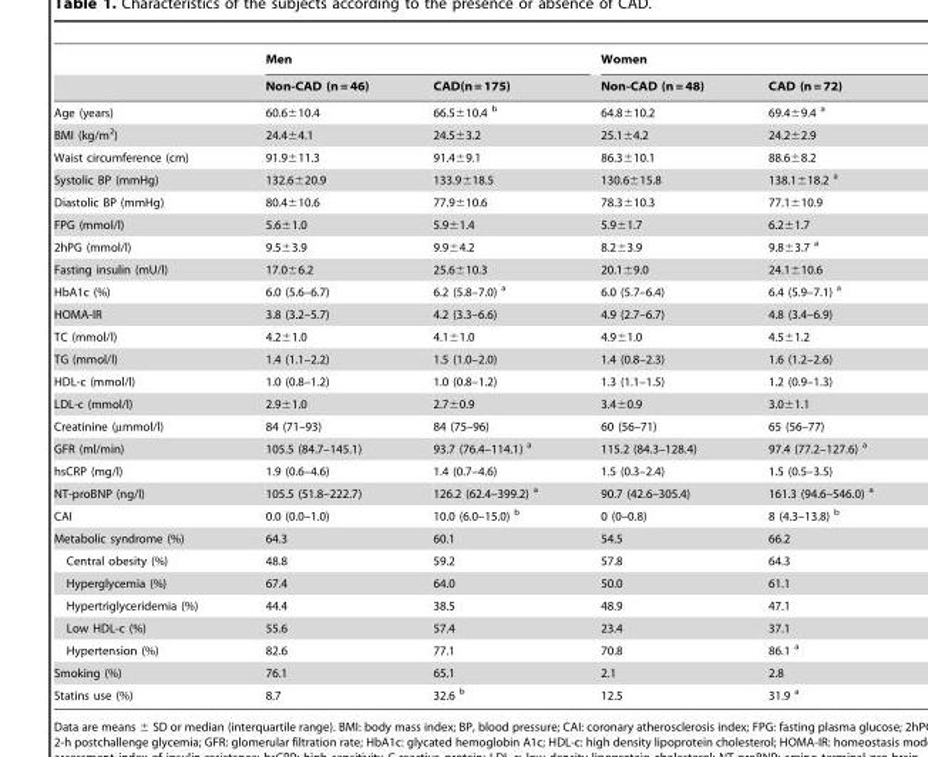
<table><thead><tr><td rowspan="2"></td><td colspan="2">Men</td><td colspan="2">Women</td></tr><tr><td>Non-CAD (n = 46)</td><td>CAD(n = 175)</td><td>Non-CAD (n = 48)</td><td>CAD (n = 72)</td></tr></thead><tbody><tr><td>Age (years)</td><td>60.6±10.4</td><td>66.5±10.4 b</td><td>64.8±10.2</td><td>69.4±9.4 a</td></tr><tr><td>BMI (kg/m<sup>2</sup>)</td><td>24.4±4.1</td><td>24.5±3.2</td><td>25.1±4.2</td><td>24.2±2.9</td></tr><tr><td>Waist circumference (cm)</td><td>91.9±11.3</td><td>91.4±9.1</td><td>86.3±10.1</td><td>88.6±8.2</td></tr><tr><td>Systolic BP (mmHg)</td><td>132.6±20.9</td><td>133.9±18.5</td><td>130.6±15.8</td><td>138.1±18.2 a</td></tr><tr><td>Diastolic BP (mmHg)</td><td>80.4±10.6</td><td>77.9±10.6</td><td>78.3±10.3</td><td>77.1±10.9</td></tr><tr><td>FPG (mmol/l)</td><td>5.6±1.0</td><td>5.9±1.4</td><td>5.9±1.7</td><td>6.2±1.7</td></tr><tr><td>2hPG (mmol/l)</td><td>9.5±3.9</td><td>9.9±4.2</td><td>8.2±3.9</td><td>9.8±3.7 a</td></tr><tr><td>Fasting insulin (mU/l)</td><td>17.0±6.2</td><td>25.6±10.3</td><td>20.1±9.0</td><td>24.1±10.6</td></tr><tr><td>HbA1c (%)</td><td>6.0 (5.6–6.7)</td><td>6.2 (5.8–7.0) a</td><td>6.0 (5.7–6.4)</td><td>6.4 (5.9–7.1) a</td></tr><tr><td>HOMA-IR</td><td>3.8 (3.2–5.7)</td><td>4.2 (3.3–6.6)</td><td>4.9 (2.7–6.7)</td><td>4.8 (3.4–6.9)</td></tr><tr><td>TC (mmol/l)</td><td>4.2±1.0</td><td>4.1±1.0</td><td>4.9±1.0</td><td>4.5±1.2</td></tr><tr><td>TG (mmol/l)</td><td>1.4 (1.1–2.2)</td><td>1.5 (1.0–2.0)</td><td>1.4 (0.8–2.3)</td><td>1.6 (1.2–2.6)</td></tr><tr><td>HDL-c (mmol/l)</td><td>1.0 (0.8–1.2)</td><td>1.0 (0.8–1.2)</td><td>1.3 (1.1–1.5)</td><td>1.2 (0.9–1.3)</td></tr><tr><td>LDL-c (mmol/l)</td><td>2.9±1.0</td><td>2.7±0.9</td><td>3.4±0.9</td><td>3.0±1.1</td></tr><tr><td>Creatinine (µmmol/l)</td><td>84 (71–93)</td><td>84 (75–96)</td><td>60 (56–71)</td><td>65 (56–77)</td></tr><tr><td>GFR (ml/min)</td><td>105.5 (84.7–145.1)</td><td>93.7 (76.4–114.1) a</td><td>115.2 (84.3–128.4)</td><td>97.4 (77.2–127.6) a</td></tr><tr><td>hsCRP (mg/l)</td><td>1.9 (0.6–4.6)</td><td>1.4 (0.7–4.6)</td><td>1.5 (0.3–2.4)</td><td>1.5 (0.5–3.5)</td></tr><tr><td>NT-proBNP (ng/l)</td><td>105.5 (51.8–222.7)</td><td>126.2 (62.4–399.2) a</td><td>90.7 (42.6–305.4)</td><td>161.3 (94.6–546.0) a</td></tr><tr><td>CAI</td><td>0.0 (0.0–1.0)</td><td>10.0 (6.0–15.0) b</td><td>0 (0–0.8)</td><td>8 (4.3–13.8) b</td></tr><tr><td>Metabolic syndrome (%)</td><td>64.3</td><td>60.1</td><td>54.5</td><td>66.2</td></tr><tr><td>Central obesity (%)</td><td>48.8</td><td>59.2</td><td>57.8</td><td>64.3</td></tr><tr><td>Hyperglycemia (%)</td><td>67.4</td><td>64.0</td><td>50.0</td><td>61.1</td></tr><tr><td>Hypertriglyceridemia (%)</td><td>44.4</td><td>38.5</td><td>48.9</td><td>47.1</td></tr><tr><td>Low HDL-c (%)</td><td>55.6</td><td>57.4</td><td>23.4</td><td>37.1</td></tr><tr><td>Hypertension (%)</td><td>82.6</td><td>77.1</td><td>70.8</td><td>86.1 a</td></tr><tr><td>Smoking (%)</td><td>76.1</td><td>65.1</td><td>2.1</td><td>2.8</td></tr><tr><td>Statins use (%)</td><td>8.7</td><td>32.6 b</td><td>12.5</td><td>31.9 a</td></tr></tbody></table>